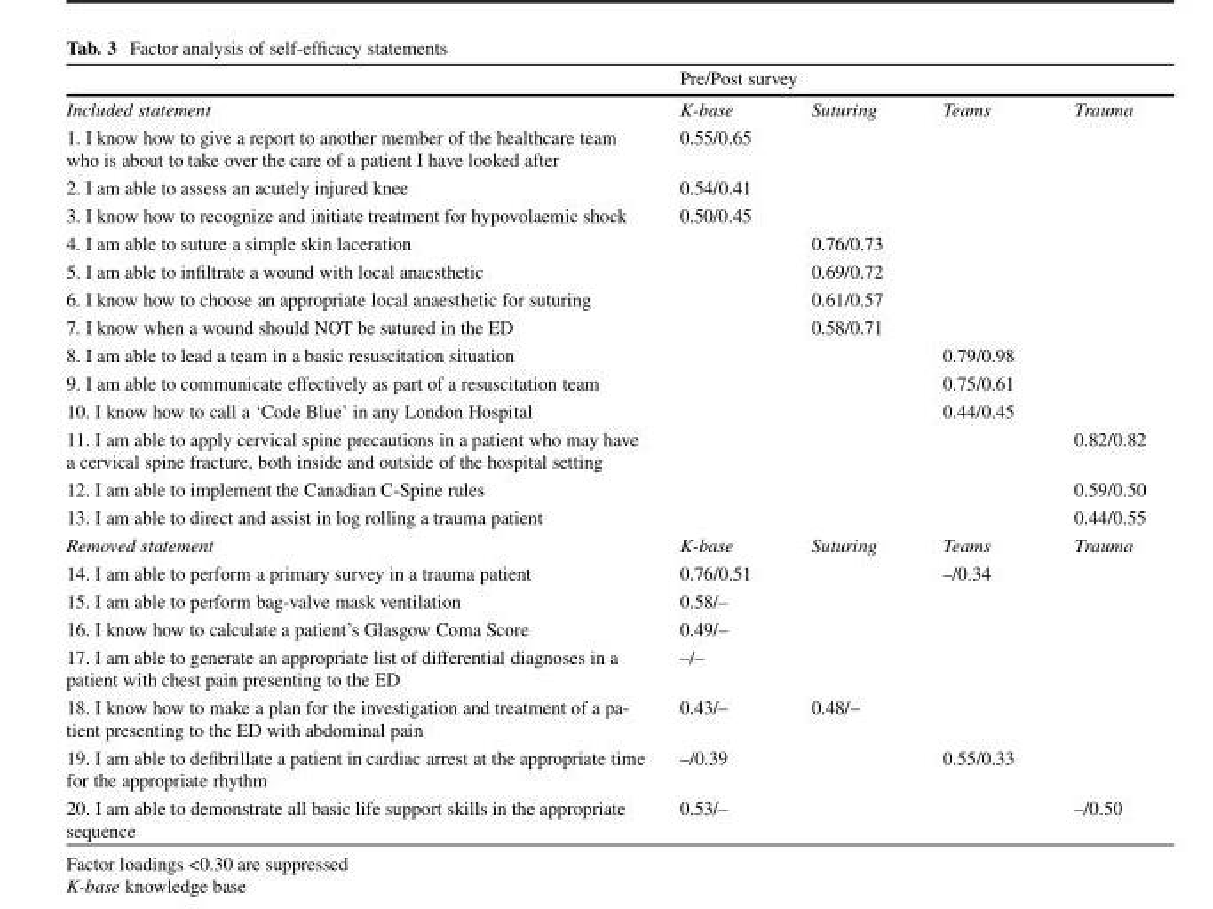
<table><thead><tr><td rowspan="2">Included statement</td><td colspan="4">Pre/Post survey</td></tr><tr><td>K-base</td><td>Suturing</td><td>Teams</td><td>Trauma</td></tr></thead><tbody><tr><td>1. I know how to give a report to another member of the healthcare team who is about to take over the care of a patient I have looked after</td><td>0.55/0.65</td><td></td><td></td><td></td></tr><tr><td>2. I am able to assess an acutely injured knee</td><td>0.54/0.41</td><td></td><td></td><td></td></tr><tr><td>3. I know how to recognize and initiate treatment for hypovolaemic shock</td><td>0.50/0.45</td><td></td><td></td><td></td></tr><tr><td>4. I am able to suture a simple skin laceration</td><td></td><td>0.76/0.73</td><td></td><td></td></tr><tr><td>5. I am able to infiltrate a wound with local anaesthetic</td><td></td><td>0.69/0.72</td><td></td><td></td></tr><tr><td>6. I know how to choose an appropriate local anaesthetic for suturing</td><td></td><td>0.61/0.57</td><td></td><td></td></tr><tr><td>7. I know when a wound should NOT be sutured in the ED</td><td></td><td>0.58/0.71</td><td></td><td></td></tr><tr><td>8. I am able to lead a team in a basic resuscitation situation</td><td></td><td></td><td>0.79/0.98</td><td></td></tr><tr><td>9. I am able to communicate effectively as part of a resuscitation team</td><td></td><td></td><td>0.75/0.61</td><td></td></tr><tr><td>10. I know how to call a ‘Code Blue’ in any London Hospital</td><td></td><td></td><td>0.44/0.45</td><td></td></tr><tr><td>11. I am able to apply cervical spine precautions in a patient who may have a cervical spine fracture, both inside and outside of the hospital setting</td><td></td><td></td><td></td><td>0.82/0.82</td></tr><tr><td>12. I am able to implement the Canadian C-Spine rules</td><td></td><td></td><td></td><td>0.59/0.50</td></tr><tr><td>13. I am able to direct and assist in log rolling a trauma patient</td><td></td><td></td><td></td><td>0.44/0.55</td></tr><tr><td>Removed statement</td><td>K-base</td><td>Suturing</td><td>Teams</td><td>Trauma</td></tr><tr><td>14. I am able to perform a primary survey in a trauma patient</td><td>0.76/0.51</td><td></td><td>–/0.34</td><td></td></tr><tr><td>15. I am able to perform bag-valve mask ventilation</td><td>0.58/–</td><td></td><td></td><td></td></tr><tr><td>16. I know how to calculate a patient’s Glasgow Coma Score</td><td>0.49/–</td><td></td><td></td><td></td></tr><tr><td>17. I am able to generate an appropriate list of differential diagnoses in a patient with chest pain presenting to the ED</td><td>–/–</td><td></td><td></td><td></td></tr><tr><td>18. I know how to make a plan for the investigation and treatment of a pa- tient presenting to the ED with abdominal pain</td><td>0.43/–</td><td>0.48/–</td><td></td><td></td></tr><tr><td>19. I am able to defibrillate a patient in cardiac arrest at the appropriate time for the appropriate rhythm</td><td>–/0.39</td><td></td><td>0.55/0.33</td><td></td></tr><tr><td>20. I am able to demonstrate all basic life support skills in the appropriate sequence</td><td>0.53/–</td><td></td><td></td><td>–/0.50</td></tr></tbody></table>